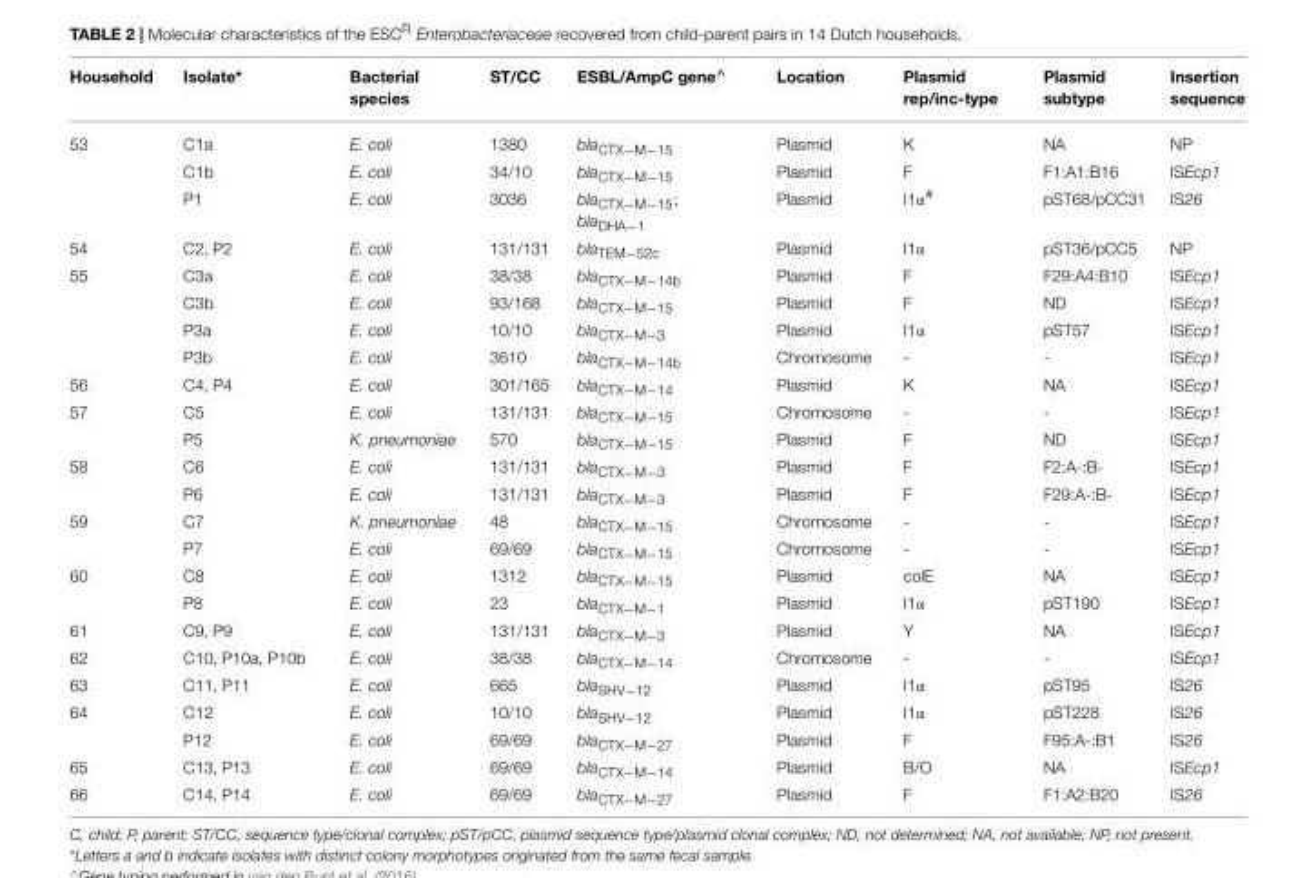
<table><thead><tr><td>Household</td><td>Isolate*</td><td>Bacterial species</td><td>ST/CC</td><td>ESBL/AmpC gene<sup>∧</sup></td><td>Location</td><td>Plasmid rep/inc-type</td><td>Plasmid subtype</td><td>Insertion sequence</td></tr></thead><tbody><tr><td rowspan="3">53</td><td>C1a</td><td>E. coli</td><td>1380</td><td>bla<sub>CTX−M−15</sub></td><td>Plasmid</td><td>K</td><td>NA</td><td>NP</td></tr><tr><td>C1b</td><td>E. coli</td><td>34/10</td><td>bla<sub>CTX−M−15</sub></td><td>Plasmid</td><td>F</td><td>F1:A1:B16</td><td>ISEcp1</td></tr><tr><td>P1</td><td>E. coli</td><td>3036</td><td>bla<sub>CTX−M−15</sub>; bla<sub>DHA−1</sub></td><td>Plasmid</td><td>I1α<sup>#</sup></td><td>pST68/pCC31</td><td>IS26</td></tr><tr><td>54</td><td>C2, P2</td><td>E. coli</td><td>131/131</td><td>bla<sub>TEM−52c</sub></td><td>Plasmid</td><td>I1α</td><td>pST36/pCC5</td><td>NP</td></tr><tr><td rowspan="4">55</td><td>C3a</td><td>E. coli</td><td>38/38</td><td>bla<sub>CTX−M−14b</sub></td><td>Plasmid</td><td>F</td><td>F29:A4:B10</td><td>ISEcp1</td></tr><tr><td>C3b</td><td>E. coli</td><td>93/168</td><td>bla<sub>CTX−M−15</sub></td><td>Plasmid</td><td>F</td><td>ND</td><td>ISEcp1</td></tr><tr><td>P3a</td><td>E. coli</td><td>10/10</td><td>bla<sub>CTX−M−3</sub></td><td>Plasmid</td><td>I1α</td><td>pST57</td><td>ISEcp1</td></tr><tr><td>P3b</td><td>E. coli</td><td>3610</td><td>bla<sub>CTX−M−14b</sub></td><td>Chromosome</td><td>-</td><td>-</td><td>ISEcp1</td></tr><tr><td>56</td><td>C4, P4</td><td>E. coli</td><td>301/165</td><td>bla<sub>CTX−M−14</sub></td><td>Plasmid</td><td>K</td><td>NA</td><td>ISEcp1</td></tr><tr><td rowspan="2">57</td><td>C5</td><td>E. coli</td><td>131/131</td><td>bla<sub>CTX−M−15</sub></td><td>Chromosome</td><td>-</td><td>-</td><td>ISEcp1</td></tr><tr><td>P5</td><td>K. pneumoniae</td><td>570</td><td>bla<sub>CTX−M−15</sub></td><td>Plasmid</td><td>F</td><td>ND</td><td>ISEcp1</td></tr><tr><td rowspan="2">58</td><td>C6</td><td>E. coli</td><td>131/131</td><td>bla<sub>CTX−M−3</sub></td><td>Plasmid</td><td>F</td><td>F2:A-:B-</td><td>ISEcp1</td></tr><tr><td>P6</td><td>E. coli</td><td>131/131</td><td>bla<sub>CTX−M−3</sub></td><td>Plasmid</td><td>F</td><td>F29:A-:B-</td><td>ISEcp1</td></tr><tr><td rowspan="2">59</td><td>C7</td><td>K. pneumoniae</td><td>48</td><td>bla<sub>CTX−M−15</sub></td><td>Chromosome</td><td>-</td><td>-</td><td>ISEcp1</td></tr><tr><td>P7</td><td>E. coli</td><td>69/69</td><td>bla<sub>CTX−M−15</sub></td><td>Chromosome</td><td>-</td><td>-</td><td>ISEcp1</td></tr><tr><td rowspan="2">60</td><td>C8</td><td>E. coli</td><td>1312</td><td>bla<sub>CTX−M−15</sub></td><td>Plasmid</td><td>colE</td><td>NA</td><td>ISEcp1</td></tr><tr><td>P8</td><td>E. coli</td><td>23</td><td>bla<sub>CTX−M−1</sub></td><td>Plasmid</td><td>I1α</td><td>pST190</td><td>ISEcp1</td></tr><tr><td>61</td><td>C9, P9</td><td>E. coli</td><td>131/131</td><td>bla<sub>CTX−M−3</sub></td><td>Plasmid</td><td>Y</td><td>NA</td><td>ISEcp1</td></tr><tr><td>62</td><td>C10, P10a, P10b</td><td>E. coli</td><td>38/38</td><td>bla<sub>CTX−M−14</sub></td><td>Chromosome</td><td>-</td><td>-</td><td>ISEcp1</td></tr><tr><td>63</td><td>C11, P11</td><td>E. coli</td><td>665</td><td>bla<sub>SHV−12</sub></td><td>Plasmid</td><td>I1α</td><td>pST95</td><td>IS26</td></tr><tr><td rowspan="2">64</td><td>C12</td><td>E. coli</td><td>10/10</td><td>bla<sub>SHV−12</sub></td><td>Plasmid</td><td>I1α</td><td>pST228</td><td>IS26</td></tr><tr><td>P12</td><td>E. coli</td><td>69/69</td><td>bla<sub>CTX−M−27</sub></td><td>Plasmid</td><td>F</td><td>F95:A-:B1</td><td>IS26</td></tr><tr><td>65</td><td>C13, P13</td><td>E. coli</td><td>69/69</td><td>bla<sub>CTX−M−14</sub></td><td>Plasmid</td><td>B/O</td><td>NA</td><td>ISEcp1</td></tr><tr><td>66</td><td>C14, P14</td><td>E. coli</td><td>69/69</td><td>bla<sub>CTX−M−27</sub></td><td>Plasmid</td><td>F</td><td>F1:A2:B20</td><td>IS26</td></tr></tbody></table>